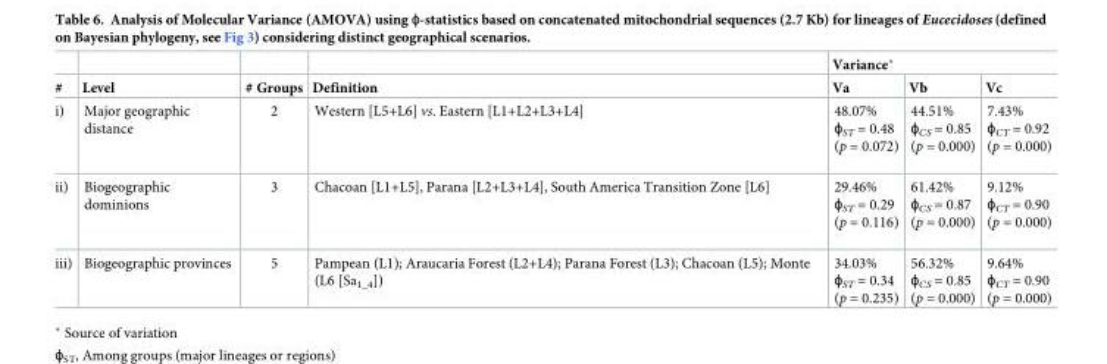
<table><thead><tr><td rowspan="2">#</td><td rowspan="2">Level</td><td rowspan="2"># Groups</td><td rowspan="2">Definition</td><td colspan="3">Variance*</td></tr><tr><td>Va</td><td>Vb</td><td>Vc</td></tr></thead><tbody><tr><td>i)</td><td>Major geographic distance</td><td>2</td><td>Western [L5+L6] vs. Eastern [L1+L2+L3+L4]</td><td>48.07% ɸ<sub>ST</sub> = 0.48 (p = 0.072)</td><td>44.51% ɸ<sub>CS</sub> = 0.85 (p = 0.000)</td><td>7.43% ɸ<sub>CT</sub> = 0.92 (p = 0.000)</td></tr><tr><td>ii)</td><td>Biogeographic dominions</td><td>3</td><td>Chacoan [L1+L5], Parana [L2+L3+L4], South America Transition Zone [L6]</td><td>29.46% ɸ<sub>ST</sub> = 0.29 (p = 0.116)</td><td>61.42% ɸ<sub>CS</sub> = 0.87 (p = 0.000)</td><td>9.12% ɸ<sub>CT</sub> = 0.90 (p = 0.000)</td></tr><tr><td>iii)</td><td>Biogeographic provinces</td><td>5</td><td>Pampean (L1); Araucaria Forest (L2+L4); Parana Forest (L3); Chacoan (L5); Monte (L6 [Sa<sub>1_4</sub>])</td><td>34.03% ɸ<sub>ST</sub> = 0.34 (p = 0.235)</td><td>56.32% ɸ<sub>CS</sub> = 0.85 (p = 0.000)</td><td>9.64% ɸ<sub>CT</sub> = 0.90 (p = 0.000)</td></tr></tbody></table>